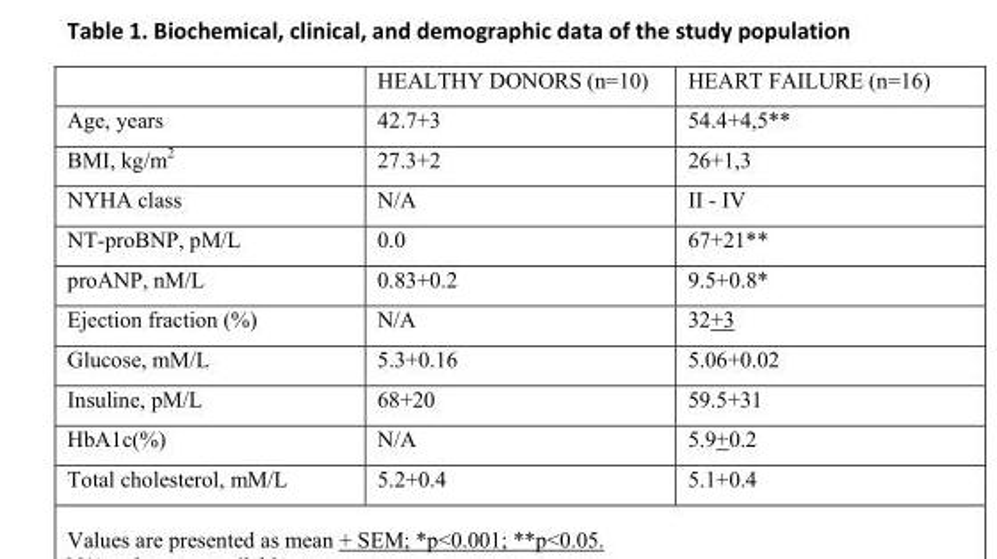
<table><thead><tr><td></td><td>HEALTHY DONORS (n=10)</td><td>HEART FAILURE (n=16)</td></tr></thead><tbody><tr><td>Age, years</td><td>42.7+3</td><td>54.4+4,5**</td></tr><tr><td>BMI, kg/m<sup>2</sup></td><td>27.3+2</td><td>26+1,3</td></tr><tr><td>NYHA class</td><td>N/A</td><td>II - IV</td></tr><tr><td>NT-proBNP, pM/L</td><td>0.0</td><td>67+21**</td></tr><tr><td>proANP, nM/L</td><td>0.83+0.2</td><td>9.5+0.8*</td></tr><tr><td>Ejection fraction (%)</td><td>N/A</td><td>32+3</td></tr><tr><td>Glucose, mM/L</td><td>5.3+0.16</td><td>5.06+0.02</td></tr><tr><td>Insuline, pM/L</td><td>68+20</td><td>59.5+31</td></tr><tr><td>HbA1c(%)</td><td>N/A</td><td>5.9+0.2</td></tr><tr><td>Total cholesterol, mM/L</td><td>5.2+0.4</td><td>5.1+0.4</td></tr></tbody></table>